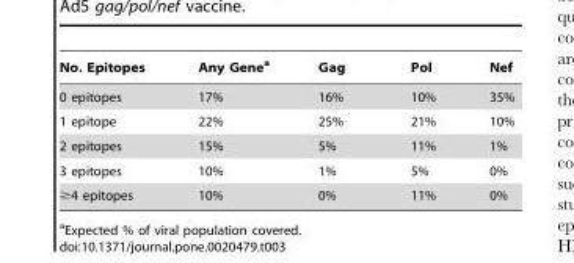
<table><thead><tr><td>No. Epitopes</td><td>Any Gene<sup>a</sup></td><td>Gag</td><td>Pol</td><td>Nef</td></tr></thead><tbody><tr><td>0 epitopes</td><td>17%</td><td>16%</td><td>10%</td><td>35%</td></tr><tr><td>1 epitope</td><td>22%</td><td>25%</td><td>21%</td><td>10%</td></tr><tr><td>2 epitopes</td><td>15%</td><td>5%</td><td>11%</td><td>1%</td></tr><tr><td>3 epitopes</td><td>10%</td><td>1%</td><td>5%</td><td>0%</td></tr><tr><td>≥4 epitopes</td><td>10%</td><td>0%</td><td>11%</td><td>0%</td></tr></tbody></table>